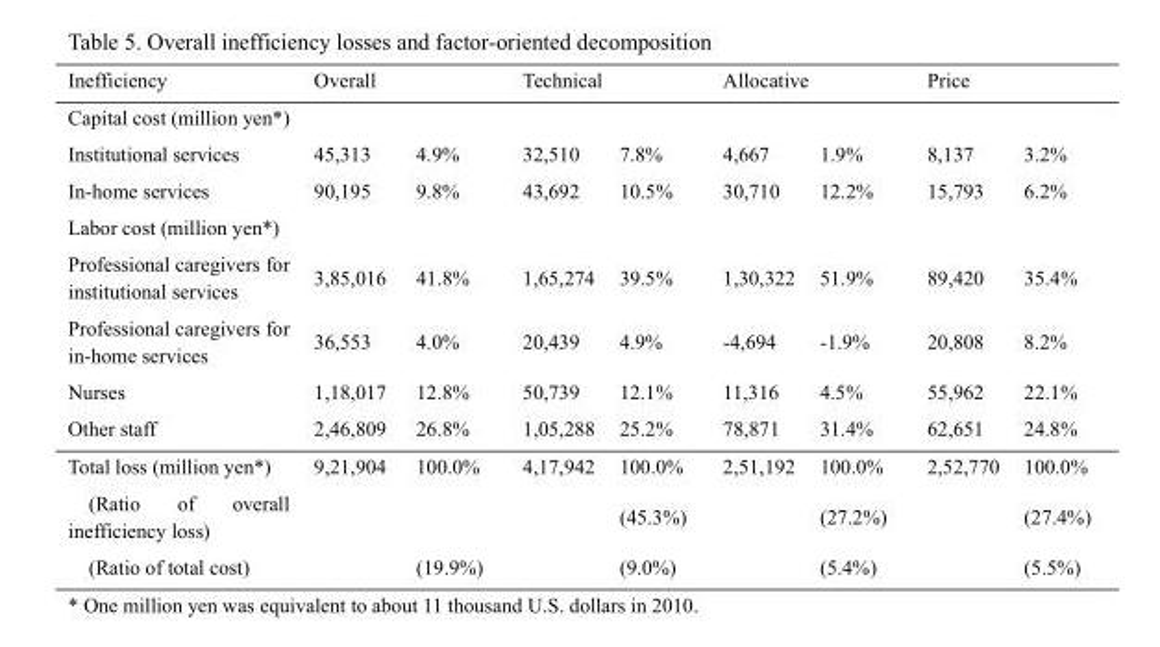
<table><thead><tr><td rowspan="2">Inefficiency Capital cost (million yen*)</td><td colspan="2">Overall</td><td colspan="2">Technical</td><td colspan="2">Allocative</td><td colspan="2">Price</td></tr><tr><td></td><td></td><td></td><td></td><td></td><td></td><td></td><td></td></tr></thead><tbody><tr><td>Institutional services</td><td>45,313</td><td>4.9%</td><td>32,510</td><td>7.8%</td><td>4,667</td><td>1.9%</td><td>8,137</td><td>3.2%</td></tr><tr><td>In-home services</td><td>90,195</td><td>9.8%</td><td>43,692</td><td>10.5%</td><td>30,710</td><td>12.2%</td><td>15,793</td><td>6.2%</td></tr><tr><td colspan="9">Labor cost (million yen*)</td></tr><tr><td>Professional caregivers for institutional services</td><td>3,85,016</td><td>41.8%</td><td>1,65,274</td><td>39.5%</td><td>1,30,322</td><td>51.9%</td><td>89,420</td><td>35.4%</td></tr><tr><td>Professional caregivers for in-home services</td><td>36,553</td><td>4.0%</td><td>20,439</td><td>4.9%</td><td>-4,694</td><td>-1.9%</td><td>20,808</td><td>8.2%</td></tr><tr><td>Nurses</td><td>1,18,017</td><td>12.8%</td><td>50,739</td><td>12.1%</td><td>11,316</td><td>4.5%</td><td>55,962</td><td>22.1%</td></tr><tr><td>Other staff</td><td>2,46,809</td><td>26.8%</td><td>1,05,288</td><td>25.2%</td><td>78,871</td><td>31.4%</td><td>62,651</td><td>24.8%</td></tr><tr><td>Total loss (million yen*)</td><td>9,21,904</td><td>100.0%</td><td>4,17,942</td><td>100.0%</td><td>2,51,192</td><td>100.0%</td><td>2,52,770</td><td>100.0%</td></tr><tr><td>(Ratio of overall inefficiency loss)</td><td></td><td></td><td></td><td>(45.3%)</td><td></td><td>(27.2%)</td><td></td><td>(27.4%)</td></tr><tr><td>(Ratio of total cost)</td><td></td><td>(19.9%)</td><td></td><td>(9.0%)</td><td></td><td>(5.4%)</td><td></td><td>(5.5%)</td></tr></tbody></table>